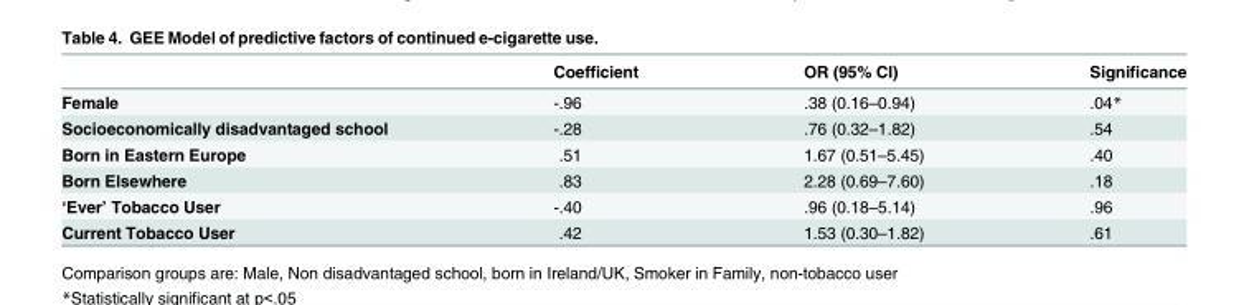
<table><thead><tr><td></td><td>Coefficient</td><td>OR (95% CI)</td><td>Significance</td></tr></thead><tbody><tr><td>Female</td><td>-.96</td><td>.38 (0.16–0.94)</td><td>.04*</td></tr><tr><td>Socioeconomically disadvantaged school</td><td>-.28</td><td>.76 (0.32–1.82)</td><td>.54</td></tr><tr><td>Born in Eastern Europe</td><td>.51</td><td>1.67 (0.51–5.45)</td><td>.40</td></tr><tr><td>Born Elsewhere</td><td>.83</td><td>2.28 (0.69–7.60)</td><td>.18</td></tr><tr><td>‘Ever’ Tobacco User</td><td>-.40</td><td>.96 (0.18–5.14)</td><td>.96</td></tr><tr><td>Current Tobacco User</td><td>.42</td><td>1.53 (0.30–1.82)</td><td>.61</td></tr></tbody></table>